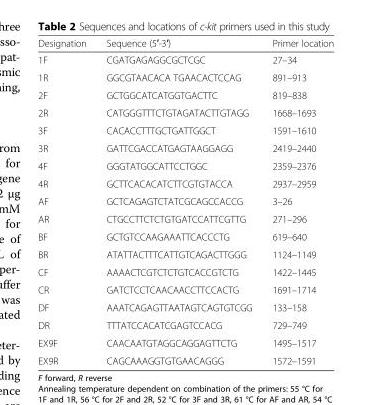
<table><thead><tr><td>Designation</td><td>Sequence (5′-3′)</td><td>Primer location</td></tr></thead><tbody><tr><td>1F</td><td>CGATGAGAGGCGCTCGC</td><td>27–34</td></tr><tr><td>1R</td><td>GGCGTAACACA TGAACACTCCAG</td><td>891–913</td></tr><tr><td>2F</td><td>GCTGGCATCATGGTGACTTC</td><td>819–838</td></tr><tr><td>2R</td><td>CATGGGTTTCTGTAGATACTTGTAGG</td><td>1668–1693</td></tr><tr><td>3F</td><td>CACACCTTTGCTGATTGGCT</td><td>1591–1610</td></tr><tr><td>3R</td><td>GATTCGACCATGAGTAAGGAGG</td><td>2419–2440</td></tr><tr><td>4F</td><td>GGGTATGGCATTCCTGGC</td><td>2359–2376</td></tr><tr><td>4R</td><td>GCTTCACACATCTTCGTGTACCA</td><td>2937–2959</td></tr><tr><td>AF</td><td>GCTCAGAGTCTATCGCAGCCACCG</td><td>3–26</td></tr><tr><td>AR</td><td>CTGCCTTCTCTGTGATCCATTCGTTG</td><td>271–296</td></tr><tr><td>BF</td><td>GCTGTCCAAGAAATTCACCCTG</td><td>619–640</td></tr><tr><td>BR</td><td>ATATTACTTTCATTGTCAGACTTGGG</td><td>1124–1149</td></tr><tr><td>CF</td><td>AAAACTCGTCTCTGTCACCGTCTG</td><td>1422–1445</td></tr><tr><td>CR</td><td>GATCTCCTCAACAACCTTCCACTG</td><td>1691–1714</td></tr><tr><td>DF</td><td>AAATCAGAGTTAATAGTCAGTGTCGG</td><td>133–158</td></tr><tr><td>DR</td><td>TTTATCCACATCGAGTCCACG</td><td>729–749</td></tr><tr><td>EX9F</td><td>CAACAATGTAGGCAGGAGTTCTG</td><td>1495–1517</td></tr><tr><td>EX9R</td><td>CAGCAAAGGTGTGAACAGGG</td><td>1572–1591</td></tr></tbody></table>